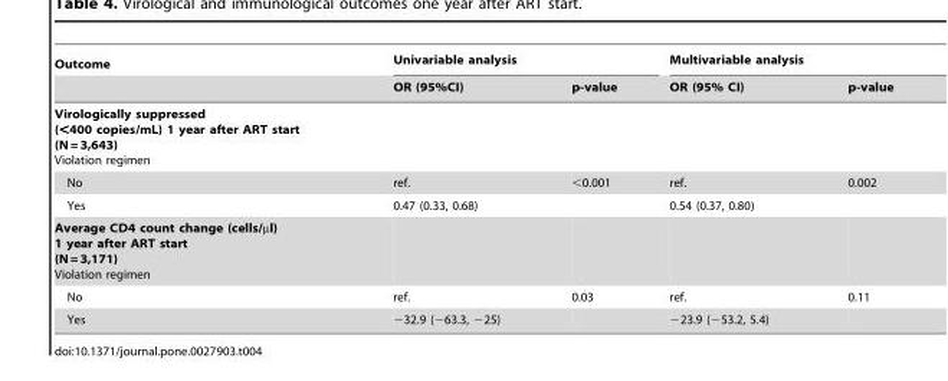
<table><thead><tr><td rowspan="2">Outcome</td><td colspan="2">Univariable analysis</td><td colspan="2">Multivariable analysis</td></tr><tr><td>OR (95%CI)</td><td>p-value</td><td>OR (95% CI)</td><td>p-value</td></tr></thead><tbody><tr><td colspan="5">Virologically suppressed (&lt;400 copies/mL) 1 year after ART start (N = 3,643) Violation regimen</td></tr><tr><td>No</td><td>ref.</td><td>&lt;0.001</td><td>ref.</td><td>0.002</td></tr><tr><td>Yes</td><td>0.47 (0.33, 0.68)</td><td></td><td>0.54 (0.37, 0.80)</td><td></td></tr><tr><td colspan="5">Average CD4 count change (cells/µl) 1 year after ART start (N = 3,171) Violation regimen</td></tr><tr><td>No</td><td>ref.</td><td>0.03</td><td>ref.</td><td>0.11</td></tr><tr><td>Yes</td><td>−32.9 (−63.3, −25)</td><td></td><td>−23.9 (−53.2, 5.4)</td><td></td></tr></tbody></table>